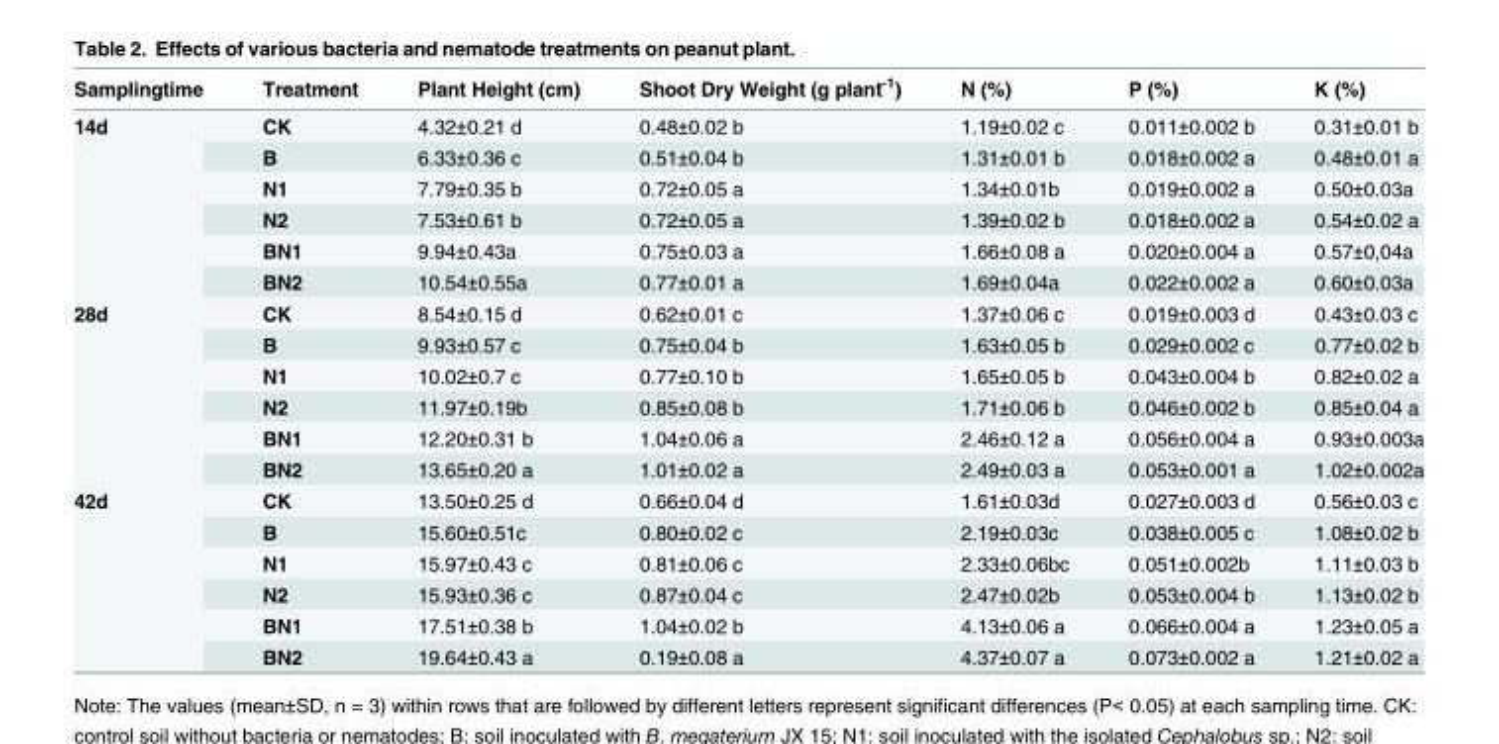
<table><thead><tr><td>Samplingtime</td><td>Treatment</td><td>Plant Height (cm)</td><td>Shoot Dry Weight (g plant<sup>-1</sup>)</td><td>N (%)</td><td>P (%)</td><td>K (%)</td></tr></thead><tbody><tr><td rowspan="6">14d</td><td>CK</td><td>4.32±0.21 d</td><td>0.48±0.02 b</td><td>1.19±0.02 c</td><td>0.011±0.002 b</td><td>0.31±0.01 b</td></tr><tr><td>B</td><td>6.33±0.36 c</td><td>0.51±0.04 b</td><td>1.31±0.01 b</td><td>0.018±0.002 a</td><td>0.48±0.01 a</td></tr><tr><td>N1</td><td>7.79±0.35 b</td><td>0.72±0.05 a</td><td>1.34±0.01b</td><td>0.019±0.002 a</td><td>0.50±0.03a</td></tr><tr><td>N2</td><td>7.53±0.61 b</td><td>0.72±0.05 a</td><td>1.39±0.02 b</td><td>0.018±0.002 a</td><td>0.54±0.02 a</td></tr><tr><td>BN1</td><td>9.94±0.43a</td><td>0.75±0.03 a</td><td>1.66±0.08 a</td><td>0.020±0.004 a</td><td>0.57±0,04a</td></tr><tr><td>BN2</td><td>10.54±0.55a</td><td>0.77±0.01 a</td><td>1.69±0.04a</td><td>0.022±0.002 a</td><td>0.60±0.03a</td></tr><tr><td rowspan="6">28d</td><td>CK</td><td>8.54±0.15 d</td><td>0.62±0.01 c</td><td>1.37±0.06 c</td><td>0.019±0.003 d</td><td>0.43±0.03 c</td></tr><tr><td>B</td><td>9.93±0.57 c</td><td>0.75±0.04 b</td><td>1.63±0.05 b</td><td>0.029±0.002 c</td><td>0.77±0.02 b</td></tr><tr><td>N1</td><td>10.02±0.7 c</td><td>0.77±0.10 b</td><td>1.65±0.05 b</td><td>0.043±0.004 b</td><td>0.82±0.02 a</td></tr><tr><td>N2</td><td>11.97±0.19b</td><td>0.85±0.08 b</td><td>1.71±0.06 b</td><td>0.046±0.002 b</td><td>0.85±0.04 a</td></tr><tr><td>BN1</td><td>12.20±0.31 b</td><td>1.04±0.06 a</td><td>2.46±0.12 a</td><td>0.056±0.004 a</td><td>0.93±0.003a</td></tr><tr><td>BN2</td><td>13.65±0.20 a</td><td>1.01±0.02 a</td><td>2.49±0.03 a</td><td>0.053±0.001 a</td><td>1.02±0.002a</td></tr><tr><td rowspan="6">42d</td><td>CK</td><td>13.50±0.25 d</td><td>0.66±0.04 d</td><td>1.61±0.03d</td><td>0.027±0.003 d</td><td>0.56±0.03 c</td></tr><tr><td>B</td><td>15.60±0.51c</td><td>0.80±0.02 c</td><td>2.19±0.03c</td><td>0.038±0.005 c</td><td>1.08±0.02 b</td></tr><tr><td>N1</td><td>15.97±0.43 c</td><td>0.81±0.06 c</td><td>2.33±0.06bc</td><td>0.051±0.002b</td><td>1.11±0.03 b</td></tr><tr><td>N2</td><td>15.93±0.36 c</td><td>0.87±0.04 c</td><td>2.47±0.02b</td><td>0.053±0.004 b</td><td>1.13±0.02 b</td></tr><tr><td>BN1</td><td>17.51±0.38 b</td><td>1.04±0.02 b</td><td>4.13±0.06 a</td><td>0.066±0.004 a</td><td>1.23±0.05 a</td></tr><tr><td>BN2</td><td>19.64±0.43 a</td><td>0.19±0.08 a</td><td>4.37±0.07 a</td><td>0.073±0.002 a</td><td>1.21±0.02 a</td></tr></tbody></table>